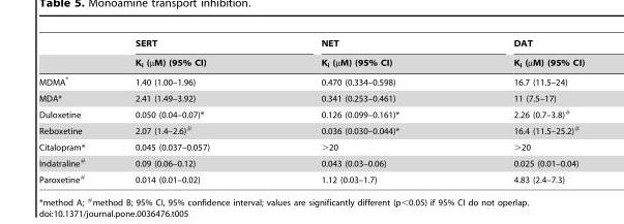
<table><thead><tr><td rowspan="2"></td><td rowspan="2">SERT K<sub>i</sub> (µM) (95% CI)</td><td rowspan="2">NET K<sub>i</sub> (µM) (95% CI)</td><td rowspan="2">DAT K<sub>i</sub> (µM) (95% CI)</td></tr><tr></tr></thead><tbody><tr><td>MDMA*</td><td>1.40 (1.00–1.96)</td><td>0.470 (0.334–0.598)</td><td>16.7 (11.5–24)</td></tr><tr><td>MDA*</td><td>2.41 (1.49–3.92)</td><td>0.341 (0.253–0.461)</td><td>11 (7.5–17)</td></tr><tr><td>Duloxetine</td><td>0.050 (0.04–0.07)*</td><td>0.126 (0.099–0.161)*</td><td>2.26 (0.7–3.8)<sup>#</sup></td></tr><tr><td>Reboxetine</td><td>2.07 (1.4–2.6)<sup>#</sup></td><td>0.036 (0.030–0.044)*</td><td>16.4 (11.5–25.2)<sup>#</sup></td></tr><tr><td>Citalopram*</td><td>0.045 (0.037–0.057)</td><td>&gt;20</td><td>&gt;20</td></tr><tr><td>Indatraline<sup>#</sup></td><td>0.09 (0.06–0.12)</td><td>0.043 (0.03–0.06)</td><td>0.025 (0.01–0.04)</td></tr><tr><td>Paroxetine<sup>#</sup></td><td>0.014 (0.01–0.02)</td><td>1.12 (0.03–1.7)</td><td>4.83 (2.4–7.3)</td></tr></tbody></table>